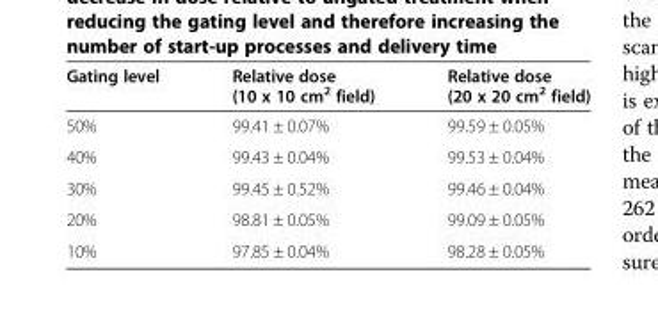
<table><thead><tr><td>Gating level</td><td>Relative dose (10 x 10 cm<sup>2</sup> field)</td><td>Relative dose (20 x 20 cm<sup>2</sup> field)</td></tr></thead><tbody><tr><td>50%</td><td>99.41 ± 0.07%</td><td>99.59 ± 0.05%</td></tr><tr><td>40%</td><td>99.43 ± 0.04%</td><td>99.53 ± 0.04%</td></tr><tr><td>30%</td><td>99.45 ± 0.52%</td><td>99.46 ± 0.04%</td></tr><tr><td>20%</td><td>98.81 ± 0.05%</td><td>99.09 ± 0.05%</td></tr><tr><td>10%</td><td>97.85 ± 0.04%</td><td>98.28 ± 0.05%</td></tr></tbody></table>